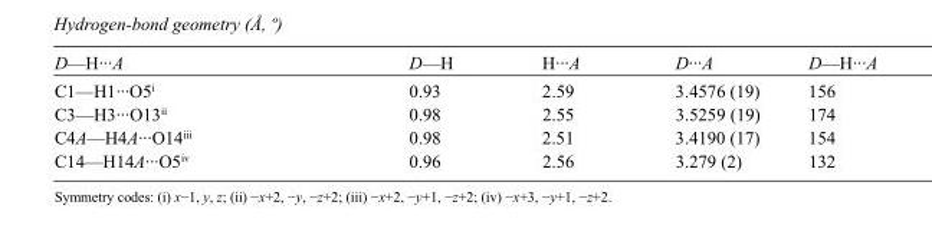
<table><tbody><tr><td>D—H···A</td><td>D—H</td><td>H···A</td><td>D···A</td><td>D—H···A</td></tr><tr><td>C1—H1···O5<sup>i</sup></td><td>0.93</td><td>2.59</td><td>3.4576 (19)</td><td>156</td></tr><tr><td>C3—H3···O13<sup>ii</sup></td><td>0.98</td><td>2.55</td><td>3.5259 (19)</td><td>174</td></tr><tr><td>C4A—H4A···O14<sup>iii</sup></td><td>0.98</td><td>2.51</td><td>3.4190 (17)</td><td>154</td></tr><tr><td>C14—H14A···O5<sup>iv</sup></td><td>0.96</td><td>2.56</td><td>3.279 (2)</td><td>132</td></tr></tbody></table>